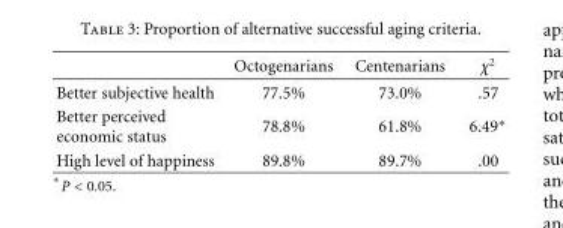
<table><thead><tr><td></td><td>Octogenarians</td><td>Centenarians</td><td>χ<sup>2</sup></td></tr></thead><tbody><tr><td>Better subjective health</td><td>77.5%</td><td>73.0%</td><td>.57</td></tr><tr><td>Better perceived economic status</td><td>78.8%</td><td>61.8%</td><td>6.49∗</td></tr><tr><td>High level of happiness</td><td>89.8%</td><td>89.7%</td><td>.00</td></tr></tbody></table>